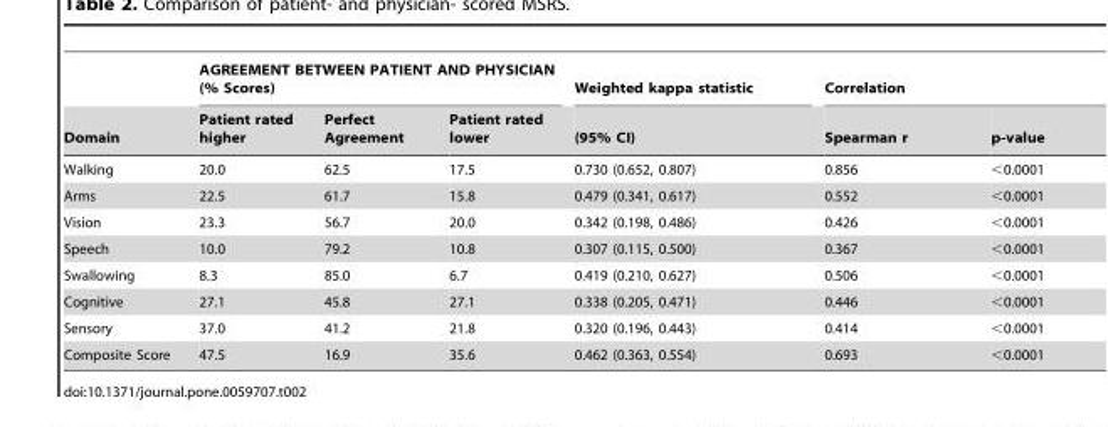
<table><thead><tr><td rowspan="2">Domain</td><td colspan="3">AGREEMENT BETWEEN PATIENT AND PHYSICIAN (% Scores)</td><td rowspan="2">Weighted kappa statistic (95% CI)</td><td colspan="2">Correlation</td></tr><tr><td>Patient rated higher</td><td>Perfect Agreement</td><td>Patient rated lower</td><td>Spearman r</td><td>p-value</td></tr></thead><tbody><tr><td>Walking</td><td>20.0</td><td>62.5</td><td>17.5</td><td>0.730 (0.652, 0.807)</td><td>0.856</td><td>&lt;0.0001</td></tr><tr><td>Arms</td><td>22.5</td><td>61.7</td><td>15.8</td><td>0.479 (0.341, 0.617)</td><td>0.552</td><td>&lt;0.0001</td></tr><tr><td>Vision</td><td>23.3</td><td>56.7</td><td>20.0</td><td>0.342 (0.198, 0.486)</td><td>0.426</td><td>&lt;0.0001</td></tr><tr><td>Speech</td><td>10.0</td><td>79.2</td><td>10.8</td><td>0.307 (0.115, 0.500)</td><td>0.367</td><td>&lt;0.0001</td></tr><tr><td>Swallowing</td><td>8.3</td><td>85.0</td><td>6.7</td><td>0.419 (0.210, 0.627)</td><td>0.506</td><td>&lt;0.0001</td></tr><tr><td>Cognitive</td><td>27.1</td><td>45.8</td><td>27.1</td><td>0.338 (0.205, 0.471)</td><td>0.446</td><td>&lt;0.0001</td></tr><tr><td>Sensory</td><td>37.0</td><td>41.2</td><td>21.8</td><td>0.320 (0.196, 0.443)</td><td>0.414</td><td>&lt;0.0001</td></tr><tr><td>Composite Score</td><td>47.5</td><td>16.9</td><td>35.6</td><td>0.462 (0.363, 0.554)</td><td>0.693</td><td>&lt;0.0001</td></tr></tbody></table>